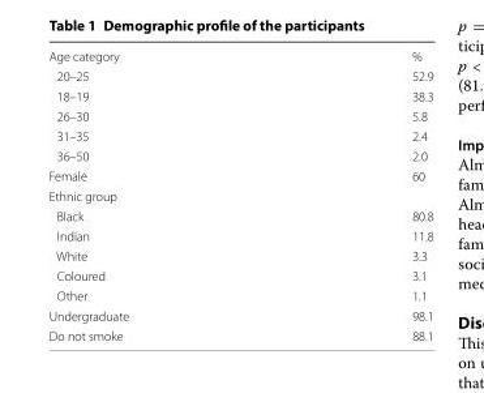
<table><tbody><tr><td>Age category</td><td>%</td></tr><tr><td>20–25</td><td>52.9</td></tr><tr><td>18–19</td><td>38.3</td></tr><tr><td>26–30</td><td>5.8</td></tr><tr><td>31–35</td><td>2.4</td></tr><tr><td>36–50</td><td>2.0</td></tr><tr><td>Female</td><td>60</td></tr><tr><td colspan="2">Ethnic group</td></tr><tr><td>Black</td><td>80.8</td></tr><tr><td>Indian</td><td>11.8</td></tr><tr><td>White</td><td>3.3</td></tr><tr><td>Coloured</td><td>3.1</td></tr><tr><td>Other</td><td>1.1</td></tr><tr><td>Undergraduate</td><td>98.1</td></tr><tr><td>Do not smoke</td><td>88.1</td></tr></tbody></table>